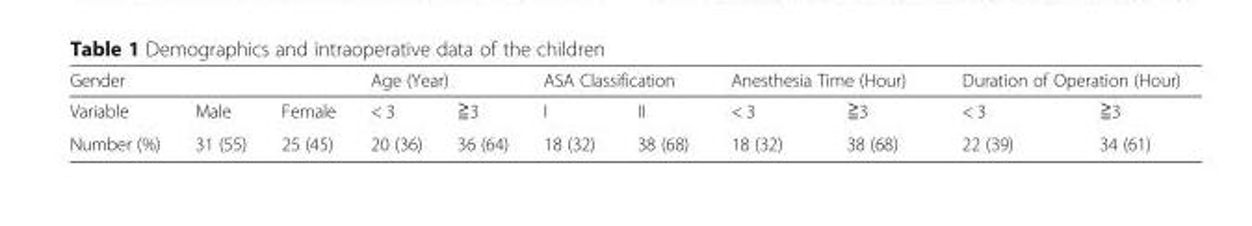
<table><thead><tr><td colspan="3">Gender</td><td colspan="2">Age (Year)</td><td colspan="2">ASA Classification</td><td colspan="2">Anesthesia Time (Hour)</td><td colspan="2">Duration of Operation (Hour)</td></tr><tr><td>Variable</td><td>Male</td><td>Female</td><td>&lt; 3</td><td>≧3</td><td>I</td><td>II</td><td>&lt; 3</td><td>≧3</td><td>&lt; 3</td><td>≧3</td></tr></thead><tbody><tr><td>Number (%)</td><td>31 (55)</td><td>25 (45)</td><td>20 (36)</td><td>36 (64)</td><td>18 (32)</td><td>38 (68)</td><td>18 (32)</td><td>38 (68)</td><td>22 (39)</td><td>34 (61)</td></tr></tbody></table>